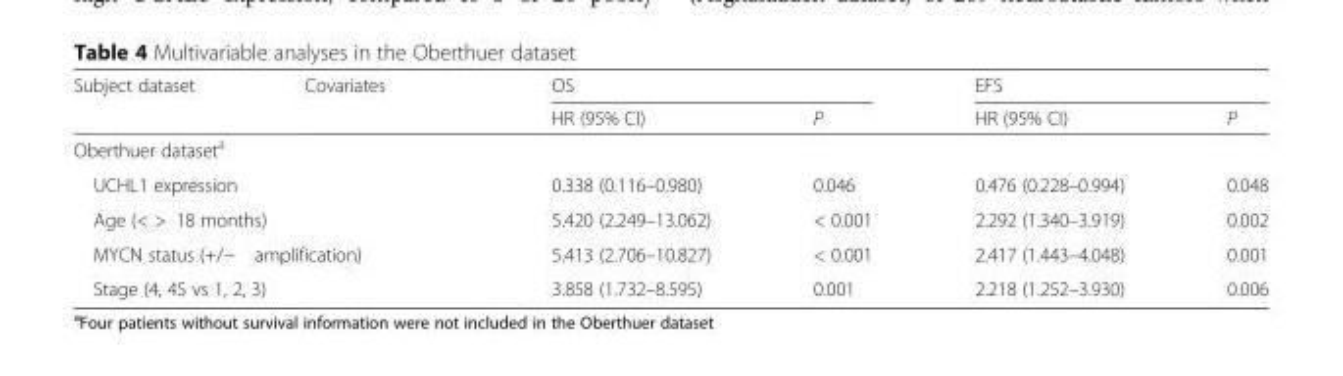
<table><thead><tr><td rowspan="2">Subject dataset</td><td rowspan="2">Covariates</td><td colspan="2">OS</td><td colspan="2">EFS</td></tr><tr><td>HR (95% CI)</td><td>P</td><td>HR (95% CI)</td><td>P</td></tr></thead><tbody><tr><td colspan="6">Oberthuer dataset<sup>a</sup></td></tr><tr><td colspan="2">UCHL1 expression</td><td>0.338 (0.116–0.980)</td><td>0.046</td><td>0.476 (0.228–0.994)</td><td>0.048</td></tr><tr><td colspan="2">Age (&lt; &gt; 18 months)</td><td>5.420 (2.249–13.062)</td><td>&lt; 0.001</td><td>2.292 (1.340–3.919)</td><td>0.002</td></tr><tr><td colspan="2">MYCN status (+/− amplification)</td><td>5.413 (2.706–10.827)</td><td>&lt; 0.001</td><td>2.417 (1.443–4.048)</td><td>0.001</td></tr><tr><td colspan="2">Stage (4, 4S vs 1, 2, 3)</td><td>3.858 (1.732–8.595)</td><td>0.001</td><td>2.218 (1.252–3.930)</td><td>0.006</td></tr></tbody></table>